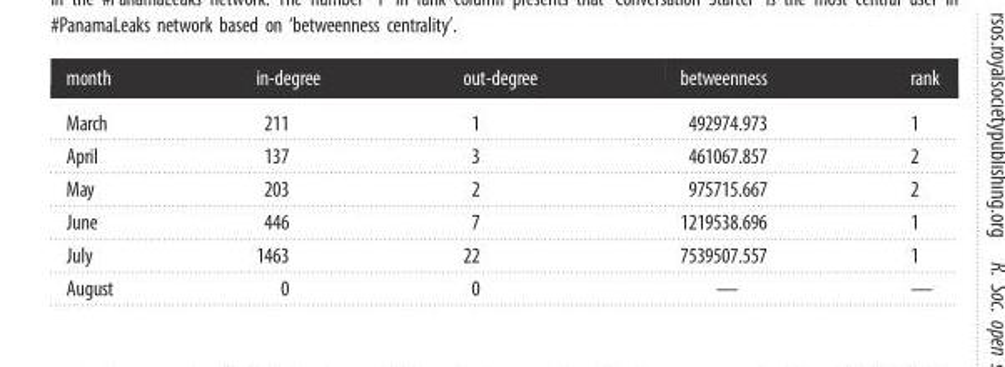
<table><thead><tr><td>month</td><td>in-degree</td><td>out-degree</td><td>betweenness</td><td>rank</td></tr></thead><tbody><tr><td>March</td><td>211</td><td>1</td><td>492974.973</td><td>1</td></tr><tr><td>April</td><td>137</td><td>3</td><td>461067.857</td><td>2</td></tr><tr><td>May</td><td>203</td><td>2</td><td>975715.667</td><td>2</td></tr><tr><td>June</td><td>446</td><td>7</td><td>1219538.696</td><td>1</td></tr><tr><td>July</td><td>1463</td><td>22</td><td>7539507.557</td><td>1</td></tr><tr><td>August</td><td>0</td><td>0</td><td>—</td><td>—</td></tr></tbody></table>